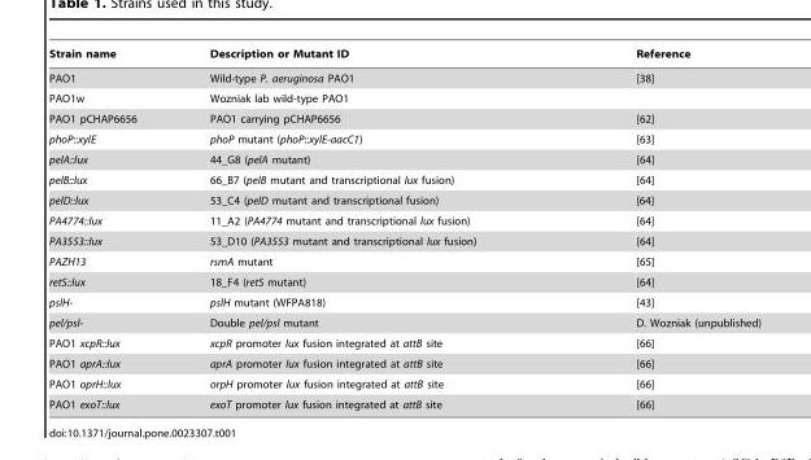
<table><thead><tr><td>Strain name</td><td>Description or Mutant ID</td><td>Reference</td></tr></thead><tbody><tr><td>PAO1</td><td>Wild-type P. aeruginosa PAO1</td><td>[38]</td></tr><tr><td>PAO1w</td><td>Wozniak lab wild-type PAO1</td><td></td></tr><tr><td>PAO1 pCHAP6656</td><td>PAO1 carrying pCHAP6656</td><td>[62]</td></tr><tr><td>phoP::xylE</td><td>phoP mutant (phoP::xylE-aacC1)</td><td>[63]</td></tr><tr><td>pelA::lux</td><td>44_G8 (pelA mutant)</td><td>[64]</td></tr><tr><td>pelB::lux</td><td>66_B7 (pelB mutant and transcriptional lux fusion)</td><td>[64]</td></tr><tr><td>pelD::lux</td><td>53_C4 (pelD mutant and transcriptional fusion)</td><td>[64]</td></tr><tr><td>PA4774::lux</td><td>11_A2 (PA4774 mutant and transcriptional lux fusion)</td><td>[64]</td></tr><tr><td>PA3553::lux</td><td>53_D10 (PA3553 mutant and transcriptional lux fusion)</td><td>[64]</td></tr><tr><td>PAZH13</td><td>rsmA mutant</td><td>[65]</td></tr><tr><td>retS::lux</td><td>18_F4 (retS mutant)</td><td>[64]</td></tr><tr><td>pslH-</td><td>pslH mutant (WFPA818)</td><td>[43]</td></tr><tr><td>pel/psl-</td><td>Double pel/psl mutant</td><td>D. Wozniak (unpublished)</td></tr><tr><td>PAO1 xcpR::lux</td><td>xcpR promoter lux fusion integrated at attB site</td><td>[66]</td></tr><tr><td>PAO1 aprA::lux</td><td>aprA promoter lux fusion integrated at attB site</td><td>[66]</td></tr><tr><td>PAO1 oprH::lux</td><td>orpH promoter lux fusion integrated at attB site</td><td>[66]</td></tr><tr><td>PAO1 exoT::lux</td><td>exoT promoter lux fusion integrated at attB site</td><td>[66]</td></tr></tbody></table>